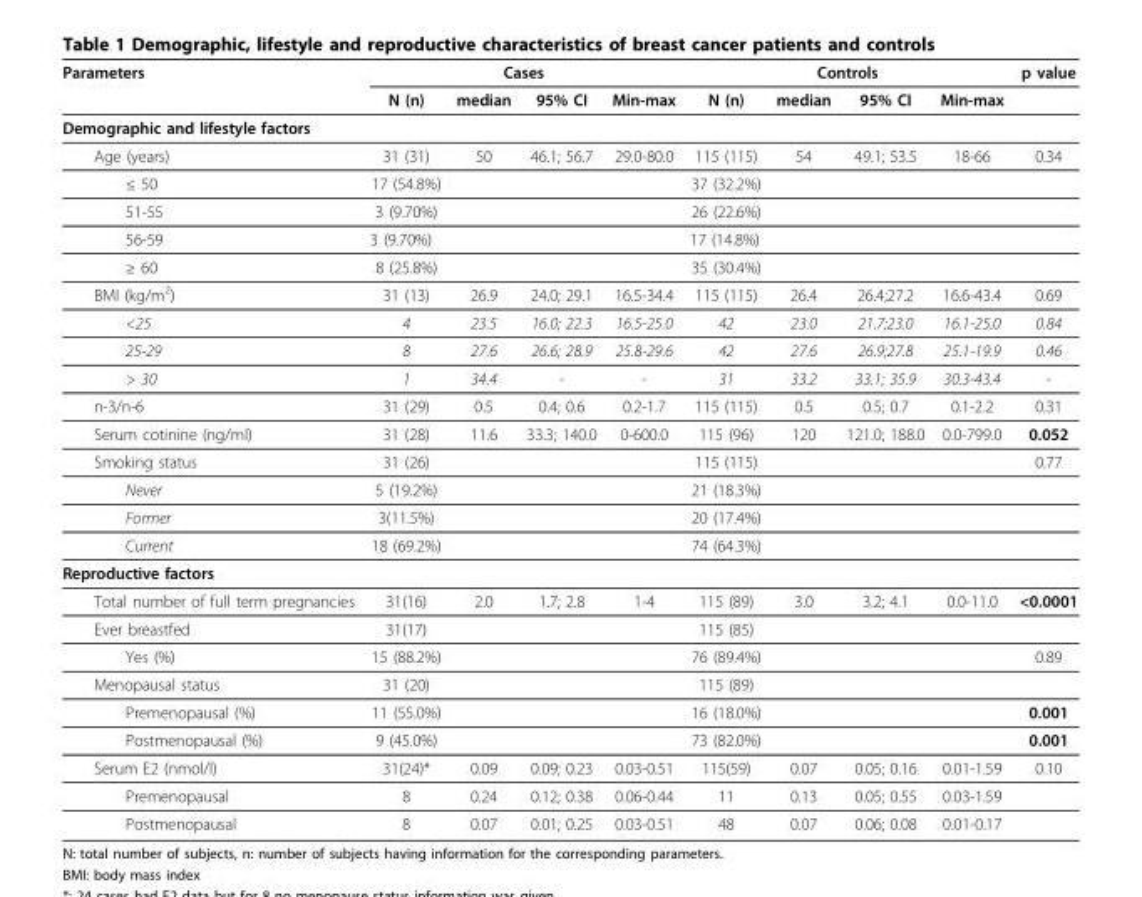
<table><thead><tr><td rowspan="2">Parameters</td><td colspan="4">Cases</td><td colspan="4">Controls</td><td rowspan="2">p value</td></tr><tr><td>N (n)</td><td>median</td><td>95% CI</td><td>Min-max</td><td>N (n)</td><td>median</td><td>95% CI</td><td>Min-max</td></tr></thead><tbody><tr><td colspan="10">Demographic and lifestyle factors</td></tr><tr><td>Age (years)</td><td>31 (31)</td><td>50</td><td>46.1; 56.7</td><td>29.0-80.0</td><td>115 (115)</td><td>54</td><td>49.1; 53.5</td><td>18-66</td><td>0.34</td></tr><tr><td>≤ 50</td><td>17 (54.8%)</td><td></td><td></td><td></td><td>37 (32.2%)</td><td></td><td></td><td></td><td></td></tr><tr><td>51-55</td><td>3 (9.70%)</td><td></td><td></td><td></td><td>26 (22.6%)</td><td></td><td></td><td></td><td></td></tr><tr><td>56-59</td><td>3 (9.70%)</td><td></td><td></td><td></td><td>17 (14.8%)</td><td></td><td></td><td></td><td></td></tr><tr><td>≥ 60</td><td>8 (25.8%)</td><td></td><td></td><td></td><td>35 (30.4%)</td><td></td><td></td><td></td><td></td></tr><tr><td>BMI (kg/m2)</td><td>31 (13)</td><td>26.9</td><td>24.0; 29.1</td><td>16.5-34.4</td><td>115 (115)</td><td>26.4</td><td>26.4;27.2</td><td>16.6-43.4</td><td>0.69</td></tr><tr><td>&lt;25</td><td>4</td><td>23.5</td><td>16.0; 22.3</td><td>16.5-25.0</td><td>42</td><td>23.0</td><td>21.7;23.0</td><td>16.1-25.0</td><td>0.84</td></tr><tr><td>25-29</td><td>8</td><td>27.6</td><td>26.6; 28.9</td><td>25.8-29.6</td><td>42</td><td>27.6</td><td>26.9;27.8</td><td>25.1-19.9</td><td>0.46</td></tr><tr><td>&gt; 30</td><td>1</td><td>34.4</td><td>-</td><td>-</td><td>31</td><td>33.2</td><td>33.1; 35.9</td><td>30.3-43.4</td><td>-</td></tr><tr><td>n-3/n-6</td><td>31 (29)</td><td>0.5</td><td>0.4; 0.6</td><td>0.2-1.7</td><td>115 (115)</td><td>0.5</td><td>0.5; 0.7</td><td>0.1-2.2</td><td>0.31</td></tr><tr><td>Serum cotinine (ng/ml)</td><td>31 (28)</td><td>11.6</td><td>33.3; 140.0</td><td>0-600.0</td><td>115 (96)</td><td>120</td><td>121.0; 188.0</td><td>0.0-799.0</td><td>0.052</td></tr><tr><td>Smoking status</td><td>31 (26)</td><td></td><td></td><td></td><td>115 (115)</td><td></td><td></td><td></td><td>0.77</td></tr><tr><td>Never</td><td>5 (19.2%)</td><td></td><td></td><td></td><td>21 (18.3%)</td><td></td><td></td><td></td><td></td></tr><tr><td>Former</td><td>3(11.5%)</td><td></td><td></td><td></td><td>20 (17.4%)</td><td></td><td></td><td></td><td></td></tr><tr><td>Current</td><td>18 (69.2%)</td><td></td><td></td><td></td><td>74 (64.3%)</td><td></td><td></td><td></td><td></td></tr><tr><td colspan="10">Reproductive factors</td></tr><tr><td>Total number of full term pregnancies</td><td>31(16)</td><td>2.0</td><td>1.7; 2.8</td><td>1-4</td><td>115 (89)</td><td>3.0</td><td>3.2; 4.1</td><td>0.0-11.0</td><td>&lt;0.0001</td></tr><tr><td>Ever breastfed</td><td>31(17)</td><td></td><td></td><td></td><td>115 (85)</td><td></td><td></td><td></td><td></td></tr><tr><td>Yes (%)</td><td>15 (88.2%)</td><td></td><td></td><td></td><td>76 (89.4%)</td><td></td><td></td><td></td><td>0.89</td></tr><tr><td>Menopausal status</td><td>31 (20)</td><td></td><td></td><td></td><td>115 (89)</td><td></td><td></td><td></td><td></td></tr><tr><td>Premenopausal (%)</td><td>11 (55.0%)</td><td></td><td></td><td></td><td>16 (18.0%)</td><td></td><td></td><td></td><td>0.001</td></tr><tr><td>Postmenopausal (%)</td><td>9 (45.0%)</td><td></td><td></td><td></td><td>73 (82.0%)</td><td></td><td></td><td></td><td>0.001</td></tr><tr><td>Serum E2 (nmol/l)</td><td>31(24)*</td><td>0.09</td><td>0.09; 0.23</td><td>0.03-0.51</td><td>115(59)</td><td>0.07</td><td>0.05; 0.16</td><td>0.01-1.59</td><td>0.10</td></tr><tr><td>Premenopausal</td><td>8</td><td>0.24</td><td>0.12; 0.38</td><td>0.06-0.44</td><td>11</td><td>0.13</td><td>0.05; 0.55</td><td>0.03-1.59</td><td></td></tr><tr><td>Postmenopausal</td><td>8</td><td>0.07</td><td>0.01; 0.25</td><td>0.03-0.51</td><td>48</td><td>0.07</td><td>0.06; 0.08</td><td>0.01-0.17</td><td></td></tr></tbody></table>